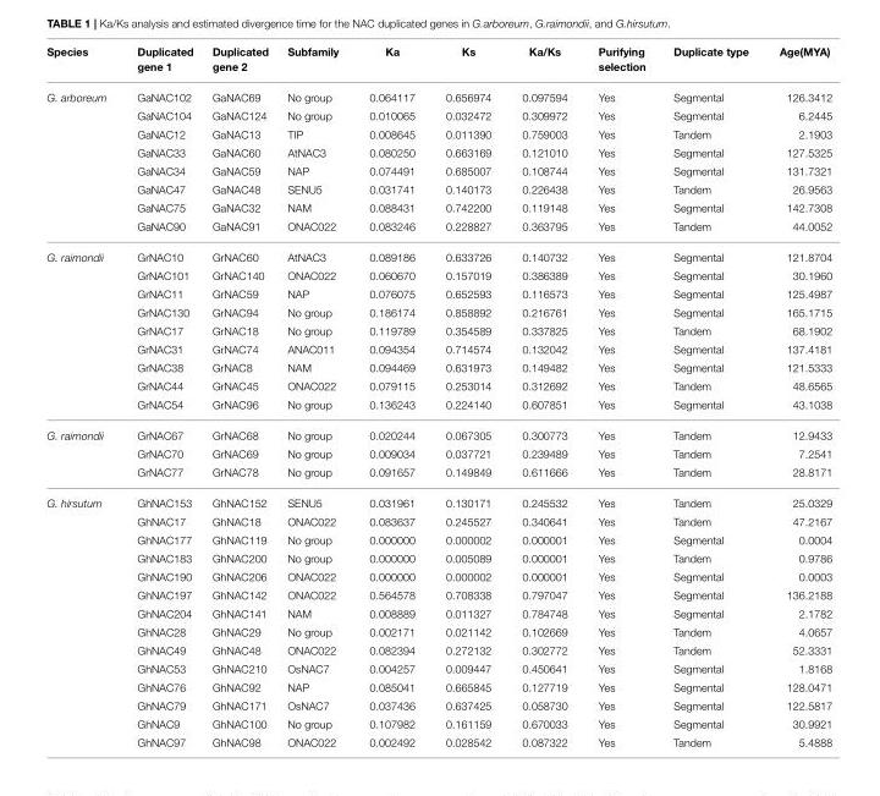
<table><thead><tr><td>Species</td><td>Duplicated gene 1</td><td>Duplicated gene 2</td><td>Subfamily</td><td>Ka</td><td>Ks</td><td>Ka/Ks</td><td>Purifying selection</td><td>Duplicate type</td><td>Age(MYA)</td></tr></thead><tbody><tr><td rowspan="8">G. arboreum</td><td>GaNAC102</td><td>GaNAC69</td><td>No group</td><td>0.064117</td><td>0.656974</td><td>0.097594</td><td>Yes</td><td>Segmental</td><td>126.3412</td></tr><tr><td>GaNAC104</td><td>GaNAC124</td><td>No group</td><td>0.010065</td><td>0.032472</td><td>0.309972</td><td>Yes</td><td>Segmental</td><td>6.2445</td></tr><tr><td>GaNAC12</td><td>GaNAC13</td><td>TIP</td><td>0.008645</td><td>0.011390</td><td>0.759003</td><td>Yes</td><td>Tandem</td><td>2.1903</td></tr><tr><td>GaNAC33</td><td>GaNAC60</td><td>AtNAC3</td><td>0.080250</td><td>0.663169</td><td>0.121010</td><td>Yes</td><td>Segmental</td><td>127.5325</td></tr><tr><td>GaNAC34</td><td>GaNAC59</td><td>NAP</td><td>0.074491</td><td>0.685007</td><td>0.108744</td><td>Yes</td><td>Segmental</td><td>131.7321</td></tr><tr><td>GaNAC47</td><td>GaNAC48</td><td>SENU5</td><td>0.031741</td><td>0.140173</td><td>0.226438</td><td>Yes</td><td>Tandem</td><td>26.9563</td></tr><tr><td>GaNAC75</td><td>GaNAC32</td><td>NAM</td><td>0.088431</td><td>0.742200</td><td>0.119148</td><td>Yes</td><td>Segmental</td><td>142.7308</td></tr><tr><td>GaNAC90</td><td>GaNAC91</td><td>ONAC022</td><td>0.083246</td><td>0.228827</td><td>0.363795</td><td>Yes</td><td>Tandem</td><td>44.0052</td></tr><tr><td rowspan="9">G. raimondii</td><td>GrNAC10</td><td>GrNAC60</td><td>AtNAC3</td><td>0.089186</td><td>0.633726</td><td>0.140732</td><td>Yes</td><td>Segmental</td><td>121.8704</td></tr><tr><td>GrNAC101</td><td>GrNAC140</td><td>ONAC022</td><td>0.060670</td><td>0.157019</td><td>0.386389</td><td>Yes</td><td>Segmental</td><td>30.1960</td></tr><tr><td>GrNAC11</td><td>GrNAC59</td><td>NAP</td><td>0.076075</td><td>0.652593</td><td>0.116573</td><td>Yes</td><td>Segmental</td><td>125.4987</td></tr><tr><td>GrNAC130</td><td>GrNAC94</td><td>No group</td><td>0.186174</td><td>0.858892</td><td>0.216761</td><td>Yes</td><td>Segmental</td><td>165.1715</td></tr><tr><td>GrNAC17</td><td>GrNAC18</td><td>No group</td><td>0.119789</td><td>0.354589</td><td>0.337825</td><td>Yes</td><td>Tandem</td><td>68.1902</td></tr><tr><td>GrNAC31</td><td>GrNAC74</td><td>ANAC011</td><td>0.094354</td><td>0.714574</td><td>0.132042</td><td>Yes</td><td>Segmental</td><td>137.4181</td></tr><tr><td>GrNAC38</td><td>GrNAC8</td><td>NAM</td><td>0.094469</td><td>0.631973</td><td>0.149482</td><td>Yes</td><td>Segmental</td><td>121.5333</td></tr><tr><td>GrNAC44</td><td>GrNAC45</td><td>ONAC022</td><td>0.079115</td><td>0.253014</td><td>0.312692</td><td>Yes</td><td>Tandem</td><td>48.6565</td></tr><tr><td>GrNAC54</td><td>GrNAC96</td><td>No group</td><td>0.136243</td><td>0.224140</td><td>0.607851</td><td>Yes</td><td>Segmental</td><td>43.1038</td></tr><tr><td rowspan="3">G. raimondii</td><td>GrNAC67</td><td>GrNAC68</td><td>No group</td><td>0.020244</td><td>0.067305</td><td>0.300773</td><td>Yes</td><td>Tandem</td><td>12.9433</td></tr><tr><td>GrNAC70</td><td>GrNAC69</td><td>No group</td><td>0.009034</td><td>0.037721</td><td>0.239489</td><td>Yes</td><td>Tandem</td><td>7.2541</td></tr><tr><td>GrNAC77</td><td>GrNAC78</td><td>No group</td><td>0.091657</td><td>0.149849</td><td>0.611666</td><td>Yes</td><td>Tandem</td><td>28.8171</td></tr><tr><td rowspan="14">G. hirsutum</td><td>GhNAC153</td><td>GhNAC152</td><td>SENU5</td><td>0.031961</td><td>0.130171</td><td>0.245532</td><td>Yes</td><td>Tandem</td><td>25.0329</td></tr><tr><td>GhNAC17</td><td>GhNAC18</td><td>ONAC022</td><td>0.083637</td><td>0.245527</td><td>0.340641</td><td>Yes</td><td>Tandem</td><td>47.2167</td></tr><tr><td>GhNAC177</td><td>GhNAC119</td><td>No group</td><td>0.000000</td><td>0.000002</td><td>0.000001</td><td>Yes</td><td>Segmental</td><td>0.0004</td></tr><tr><td>GhNAC183</td><td>GhNAC200</td><td>No group</td><td>0.000000</td><td>0.005089</td><td>0.000001</td><td>Yes</td><td>Tandem</td><td>0.9786</td></tr><tr><td>GhNAC190</td><td>GhNAC206</td><td>ONAC022</td><td>0.000000</td><td>0.000002</td><td>0.000001</td><td>Yes</td><td>Segmental</td><td>0.0003</td></tr><tr><td>GhNAC197</td><td>GhNAC142</td><td>ONAC022</td><td>0.564578</td><td>0.708338</td><td>0.797047</td><td>Yes</td><td>Segmental</td><td>136.2188</td></tr><tr><td>GhNAC204</td><td>GhNAC141</td><td>NAM</td><td>0.008889</td><td>0.011327</td><td>0.784748</td><td>Yes</td><td>Segmental</td><td>2.1782</td></tr><tr><td>GhNAC28</td><td>GhNAC29</td><td>No group</td><td>0.002171</td><td>0.021142</td><td>0.102669</td><td>Yes</td><td>Tandem</td><td>4.0657</td></tr><tr><td>GhNAC49</td><td>GhNAC48</td><td>ONAC022</td><td>0.082394</td><td>0.272132</td><td>0.302772</td><td>Yes</td><td>Tandem</td><td>52.3331</td></tr><tr><td>GhNAC53</td><td>GhNAC210</td><td>OsNAC7</td><td>0.004257</td><td>0.009447</td><td>0.450641</td><td>Yes</td><td>Segmental</td><td>1.8168</td></tr><tr><td>GhNAC76</td><td>GhNAC92</td><td>NAP</td><td>0.085041</td><td>0.665845</td><td>0.127719</td><td>Yes</td><td>Segmental</td><td>128.0471</td></tr><tr><td>GhNAC79</td><td>GhNAC171</td><td>OsNAC7</td><td>0.037436</td><td>0.637425</td><td>0.058730</td><td>Yes</td><td>Segmental</td><td>122.5817</td></tr><tr><td>GhNAC9</td><td>GhNAC100</td><td>No group</td><td>0.107982</td><td>0.161159</td><td>0.670033</td><td>Yes</td><td>Segmental</td><td>30.9921</td></tr><tr><td>GhNAC97</td><td>GhNAC98</td><td>ONAC022</td><td>0.002492</td><td>0.028542</td><td>0.087322</td><td>Yes</td><td>Tandem</td><td>5.4888</td></tr></tbody></table>